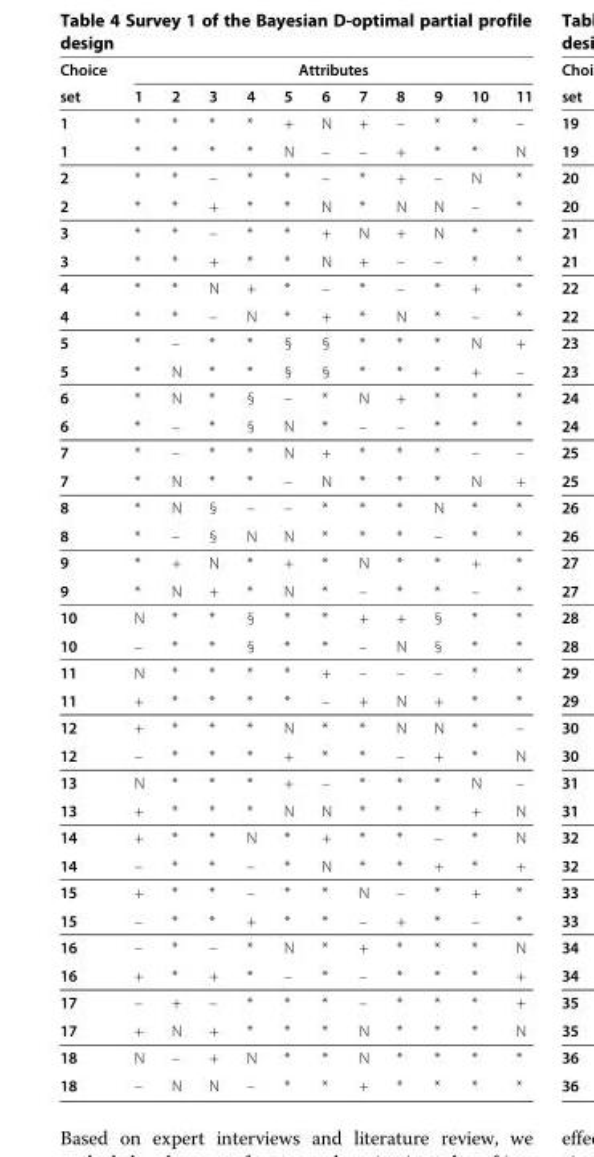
<table><thead><tr><td rowspan="2">Choice set</td><td colspan="11">Attributes</td></tr><tr><td>1</td><td>2</td><td>3</td><td>4</td><td>5</td><td>6</td><td>7</td><td>8</td><td>9</td><td>10</td><td>11</td></tr></thead><tbody><tr><td>1</td><td>*</td><td>*</td><td>*</td><td>*</td><td>+</td><td>N</td><td>+</td><td>–</td><td>*</td><td>*</td><td>–</td></tr><tr><td>1</td><td>*</td><td>*</td><td>*</td><td>*</td><td>N</td><td>–</td><td>–</td><td>+</td><td>*</td><td>*</td><td>N</td></tr><tr><td>2</td><td>*</td><td>*</td><td>–</td><td>*</td><td>*</td><td>–</td><td>*</td><td>+</td><td>–</td><td>N</td><td>*</td></tr><tr><td>2</td><td>*</td><td>*</td><td>+</td><td>*</td><td>*</td><td>N</td><td>*</td><td>N</td><td>N</td><td>–</td><td>*</td></tr><tr><td>3</td><td>*</td><td>*</td><td>–</td><td>*</td><td>*</td><td>+</td><td>N</td><td>+</td><td>N</td><td>*</td><td>*</td></tr><tr><td>3</td><td>*</td><td>*</td><td>+</td><td>*</td><td>*</td><td>N</td><td>+</td><td>–</td><td>–</td><td>*</td><td>*</td></tr><tr><td>4</td><td>*</td><td>*</td><td>N</td><td>+</td><td>*</td><td>–</td><td>*</td><td>–</td><td>*</td><td>+</td><td>*</td></tr><tr><td>4</td><td>*</td><td>*</td><td>–</td><td>N</td><td>*</td><td>+</td><td>*</td><td>N</td><td>*</td><td>–</td><td>*</td></tr><tr><td>5</td><td>*</td><td>–</td><td>*</td><td>*</td><td>§</td><td>§</td><td>*</td><td>*</td><td>*</td><td>N</td><td>+</td></tr><tr><td>5</td><td>*</td><td>N</td><td>*</td><td>*</td><td>§</td><td>§</td><td>*</td><td>*</td><td>*</td><td>+</td><td>–</td></tr><tr><td>6</td><td>*</td><td>N</td><td>*</td><td>§</td><td>–</td><td>*</td><td>N</td><td>+</td><td>*</td><td>*</td><td>*</td></tr><tr><td>6</td><td>*</td><td>–</td><td>*</td><td>§</td><td>N</td><td>*</td><td>–</td><td>–</td><td>*</td><td>*</td><td>*</td></tr><tr><td>7</td><td>*</td><td>–</td><td>*</td><td>*</td><td>N</td><td>+</td><td>*</td><td>*</td><td>*</td><td>–</td><td>–</td></tr><tr><td>7</td><td>*</td><td>N</td><td>*</td><td>*</td><td>–</td><td>N</td><td>*</td><td>*</td><td>*</td><td>N</td><td>+</td></tr><tr><td>8</td><td>*</td><td>N</td><td>§</td><td>–</td><td>–</td><td>*</td><td>*</td><td>*</td><td>N</td><td>*</td><td>*</td></tr><tr><td>8</td><td>*</td><td>–</td><td>§</td><td>N</td><td>N</td><td>*</td><td>*</td><td>*</td><td>–</td><td>*</td><td>*</td></tr><tr><td>9</td><td>*</td><td>+</td><td>N</td><td>*</td><td>+</td><td>*</td><td>N</td><td>*</td><td>*</td><td>+</td><td>*</td></tr><tr><td>9</td><td>*</td><td>N</td><td>+</td><td>*</td><td>N</td><td>*</td><td>–</td><td>*</td><td>*</td><td>–</td><td>*</td></tr><tr><td>10</td><td>N</td><td>*</td><td>*</td><td>§</td><td>*</td><td>*</td><td>+</td><td>+</td><td>§</td><td>*</td><td>*</td></tr><tr><td>10</td><td>–</td><td>*</td><td>*</td><td>§</td><td>*</td><td>*</td><td>–</td><td>N</td><td>§</td><td>*</td><td>*</td></tr><tr><td>11</td><td>N</td><td>*</td><td>*</td><td>*</td><td>*</td><td>+</td><td>–</td><td>–</td><td>–</td><td>*</td><td>*</td></tr><tr><td>11</td><td>+</td><td>*</td><td>*</td><td>*</td><td>*</td><td>–</td><td>+</td><td>N</td><td>+</td><td>*</td><td>*</td></tr><tr><td>12</td><td>+</td><td>*</td><td>*</td><td>*</td><td>N</td><td>*</td><td>*</td><td>N</td><td>N</td><td>*</td><td>–</td></tr><tr><td>12</td><td>–</td><td>*</td><td>*</td><td>*</td><td>+</td><td>*</td><td>*</td><td>–</td><td>+</td><td>*</td><td>N</td></tr><tr><td>13</td><td>N</td><td>*</td><td>*</td><td>*</td><td>+</td><td>–</td><td>*</td><td>*</td><td>*</td><td>N</td><td>–</td></tr><tr><td>13</td><td>+</td><td>*</td><td>*</td><td>*</td><td>N</td><td>N</td><td>*</td><td>*</td><td>*</td><td>+</td><td>N</td></tr><tr><td>14</td><td>+</td><td>*</td><td>*</td><td>N</td><td>*</td><td>+</td><td>*</td><td>*</td><td>–</td><td>*</td><td>N</td></tr><tr><td>14</td><td>–</td><td>*</td><td>*</td><td>–</td><td>*</td><td>N</td><td>*</td><td>*</td><td>+</td><td>*</td><td>+</td></tr><tr><td>15</td><td>+</td><td>*</td><td>*</td><td>–</td><td>*</td><td>*</td><td>N</td><td>–</td><td>*</td><td>+</td><td>*</td></tr><tr><td>15</td><td>–</td><td>*</td><td>*</td><td>+</td><td>*</td><td>*</td><td>–</td><td>+</td><td>*</td><td>–</td><td>*</td></tr><tr><td>16</td><td>–</td><td>*</td><td>–</td><td>*</td><td>N</td><td>*</td><td>+</td><td>*</td><td>*</td><td>*</td><td>N</td></tr><tr><td>16</td><td>+</td><td>*</td><td>+</td><td>*</td><td>–</td><td>*</td><td>–</td><td>*</td><td>*</td><td>*</td><td>+</td></tr><tr><td>17</td><td>–</td><td>+</td><td>–</td><td>*</td><td>*</td><td>*</td><td>–</td><td>*</td><td>*</td><td>*</td><td>+</td></tr><tr><td>17</td><td>+</td><td>N</td><td>+</td><td>*</td><td>*</td><td>*</td><td>N</td><td>*</td><td>*</td><td>*</td><td>N</td></tr><tr><td>18</td><td>N</td><td>–</td><td>+</td><td>N</td><td>*</td><td>*</td><td>N</td><td>*</td><td>*</td><td>*</td><td>*</td></tr><tr><td>18</td><td>–</td><td>N</td><td>N</td><td>–</td><td>*</td><td>*</td><td>+</td><td>*</td><td>*</td><td>*</td><td>*</td></tr></tbody></table>